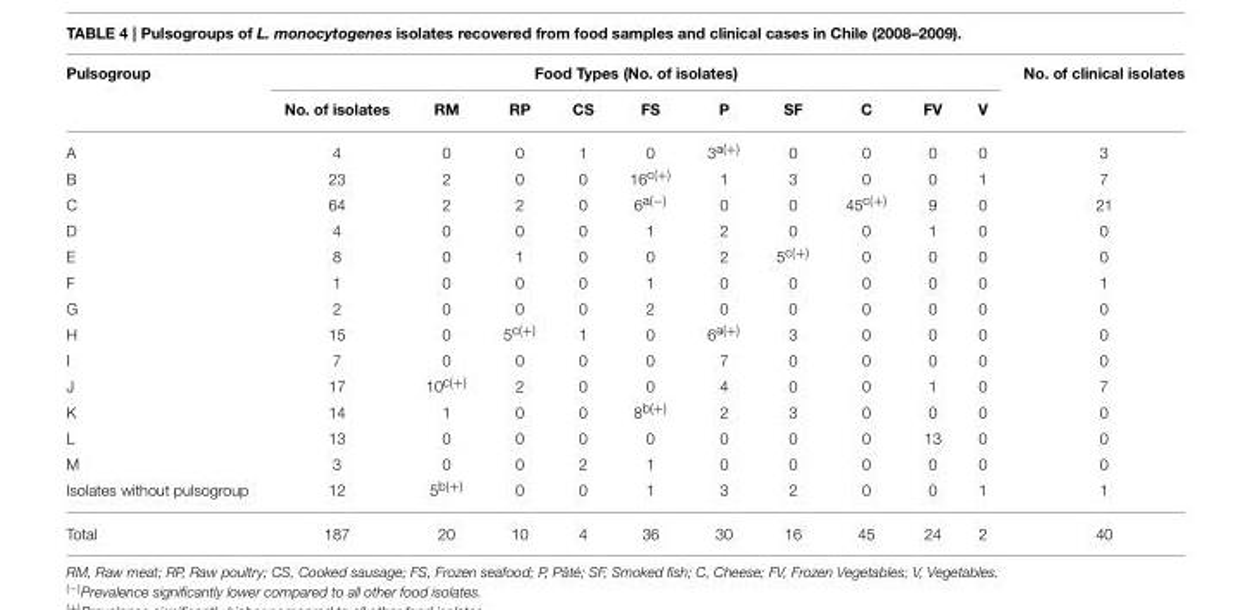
<table><thead><tr><td rowspan="2">Pulsogroup</td><td colspan="10">Food Types (No. of isolates)</td><td rowspan="2">No. of clinical isolates</td></tr><tr><td>No. of isolates</td><td>RM</td><td>RP</td><td>CS</td><td>FS</td><td>P</td><td>SF</td><td>C</td><td>FV</td><td>V</td></tr></thead><tbody><tr><td>A</td><td>4</td><td>0</td><td>0</td><td>1</td><td>0</td><td>3<sup>a(+)</sup></td><td>0</td><td>0</td><td>0</td><td>0</td><td>3</td></tr><tr><td>B</td><td>23</td><td>2</td><td>0</td><td>0</td><td>16<sup>c(+)</sup></td><td>1</td><td>3</td><td>0</td><td>0</td><td>1</td><td>7</td></tr><tr><td>C</td><td>64</td><td>2</td><td>2</td><td>0</td><td>6<sup>a(−)</sup></td><td>0</td><td>0</td><td>45<sup>c(+)</sup></td><td>9</td><td>0</td><td>21</td></tr><tr><td>D</td><td>4</td><td>0</td><td>0</td><td>0</td><td>1</td><td>2</td><td>0</td><td>0</td><td>1</td><td>0</td><td>0</td></tr><tr><td>E</td><td>8</td><td>0</td><td>1</td><td>0</td><td>0</td><td>2</td><td>5<sup>c(+)</sup></td><td>0</td><td>0</td><td>0</td><td>0</td></tr><tr><td>F</td><td>1</td><td>0</td><td>0</td><td>0</td><td>1</td><td>0</td><td>0</td><td>0</td><td>0</td><td>0</td><td>1</td></tr><tr><td>G</td><td>2</td><td>0</td><td>0</td><td>0</td><td>2</td><td>0</td><td>0</td><td>0</td><td>0</td><td>0</td><td>0</td></tr><tr><td>H</td><td>15</td><td>0</td><td>5<sup>c(+)</sup></td><td>1</td><td>0</td><td>6<sup>a(+)</sup></td><td>3</td><td>0</td><td>0</td><td>0</td><td>0</td></tr><tr><td>I</td><td>7</td><td>0</td><td>0</td><td>0</td><td>0</td><td>7</td><td>0</td><td>0</td><td>0</td><td>0</td><td>0</td></tr><tr><td>J</td><td>17</td><td>10<sup>c(+)</sup></td><td>2</td><td>0</td><td>0</td><td>4</td><td>0</td><td>0</td><td>1</td><td>0</td><td>7</td></tr><tr><td>K</td><td>14</td><td>1</td><td>0</td><td>0</td><td>8<sup>b(+)</sup></td><td>2</td><td>3</td><td>0</td><td>0</td><td>0</td><td>0</td></tr><tr><td>L</td><td>13</td><td>0</td><td>0</td><td>0</td><td>0</td><td>0</td><td>0</td><td>0</td><td>13</td><td>0</td><td>0</td></tr><tr><td>M</td><td>3</td><td>0</td><td>0</td><td>2</td><td>1</td><td>0</td><td>0</td><td>0</td><td>0</td><td>0</td><td>0</td></tr><tr><td>Isolates without pulsogroup</td><td>12</td><td>5<sup>b(+)</sup></td><td>0</td><td>0</td><td>1</td><td>3</td><td>2</td><td>0</td><td>0</td><td>1</td><td>1</td></tr><tr><td>Total</td><td>187</td><td>20</td><td>10</td><td>4</td><td>36</td><td>30</td><td>16</td><td>45</td><td>24</td><td>2</td><td>40</td></tr></tbody></table>